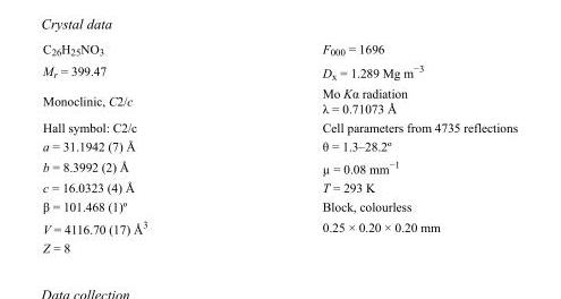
<table><tbody><tr><td>C<sub>26</sub>H<sub>25</sub>NO<sub>3</sub></td><td>F000 = 1696</td></tr><tr><td>M<sub>r</sub> = 399.47</td><td>D<sub>x</sub> = 1.289 Mg m<sup>−3</sup></td></tr><tr><td>Monoclinic, C2/c</td><td>Mo Kα radiation λ = 0.71073 Å</td></tr><tr><td>Hall symbol: C2/c</td><td>Cell parameters from 4735 reflections</td></tr><tr><td>a = 31.1942 (7) Å</td><td>θ = 1.3–28.2º</td></tr><tr><td>b = 8.3992 (2) Å</td><td>µ = 0.08 mm<sup>−1</sup></td></tr><tr><td>c = 16.0323 (4) Å</td><td>T = 293 K</td></tr><tr><td>β = 101.468 (1)º</td><td>Block, colourless</td></tr><tr><td>V = 4116.70 (17) Å<sup>3</sup></td><td>0.25 × 0.20 × 0.20 mm</td></tr><tr><td>Z = 8</td><td></td></tr></tbody></table>